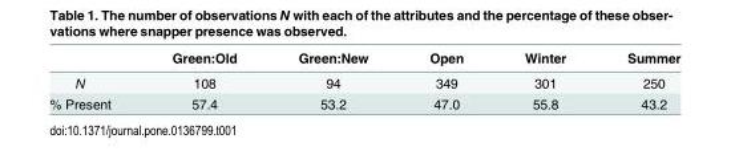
<table><thead><tr><td></td><td>Green:Old</td><td>Green:New</td><td>Open</td><td>Winter</td><td>Summer</td></tr></thead><tbody><tr><td>N</td><td>108</td><td>94</td><td>349</td><td>301</td><td>250</td></tr><tr><td>% Present</td><td>57.4</td><td>53.2</td><td>47.0</td><td>55.8</td><td>43.2</td></tr></tbody></table>